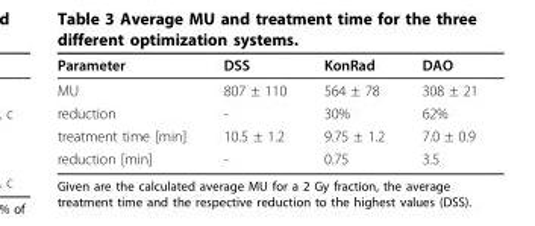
<table><thead><tr><td>Parameter</td><td>DSS</td><td>KonRad</td><td>DAO</td></tr></thead><tbody><tr><td>MU</td><td>807 ± 110</td><td>564 ± 78</td><td>308 ± 21</td></tr><tr><td>reduction</td><td>-</td><td>30%</td><td>62%</td></tr><tr><td>treatment time [min]</td><td>10.5 ± 1.2</td><td>9.75 ± 1.2</td><td>7.0 ± 0.9</td></tr><tr><td>reduction [min]</td><td>-</td><td>0.75</td><td>3.5</td></tr></tbody></table>